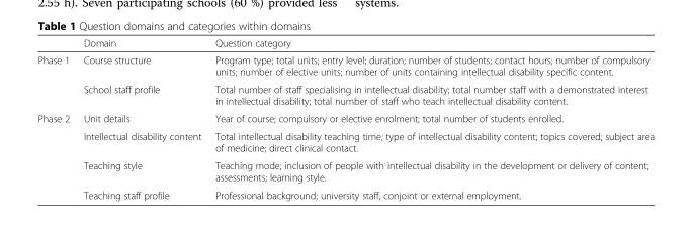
<table><thead><tr><td></td><td>Domain</td><td>Question category</td></tr></thead><tbody><tr><td rowspan="2">Phase 1</td><td>Course structure</td><td>Program type; total units; entry level; duration; number of students; contact hours; number of compulsory units; number of elective units; number of units containing intellectual disability specific content.</td></tr><tr><td>School staff profile</td><td>Total number of staff specialising in intellectual disability; total number staff with a demonstrated interest in intellectual disability; total number of staff who teach intellectual disability content.</td></tr><tr><td rowspan="4">Phase 2</td><td>Unit details</td><td>Year of course; compulsory or elective enrolment; total number of students enrolled.</td></tr><tr><td>Intellectual disability content</td><td>Total intellectual disability teaching time; type of intellectual disability content; topics covered; subject area of medicine; direct clinical contact.</td></tr><tr><td>Teaching style</td><td>Teaching mode; inclusion of people with intellectual disability in the development or delivery of content; assessments; learning style.</td></tr><tr><td>Teaching staff profile</td><td>Professional background; university staff, conjoint or external employment.</td></tr></tbody></table>